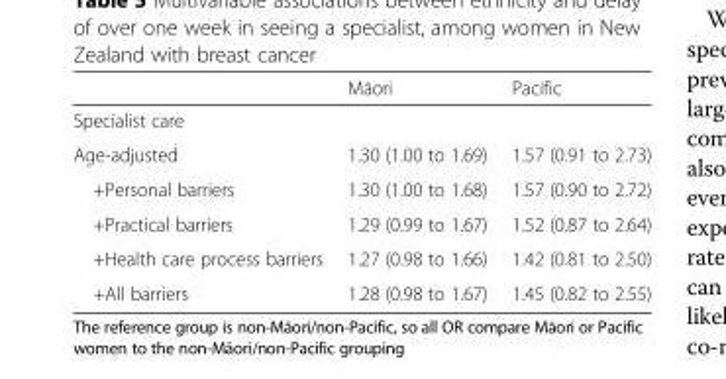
<table><thead><tr><td></td><td>Māori</td><td>Pacific</td></tr></thead><tbody><tr><td colspan="3">Specialist care</td></tr><tr><td>Age-adjusted</td><td>1.30 (1.00 to 1.69)</td><td>1.57 (0.91 to 2.73)</td></tr><tr><td>+Personal barriers</td><td>1.30 (1.00 to 1.68)</td><td>1.57 (0.90 to 2.72)</td></tr><tr><td>+Practical barriers</td><td>1.29 (0.99 to 1.67)</td><td>1.52 (0.87 to 2.64)</td></tr><tr><td>+Health care process barriers</td><td>1.27 (0.98 to 1.66)</td><td>1.42 (0.81 to 2.50)</td></tr><tr><td>+All barriers</td><td>1.28 (0.98 to 1.67)</td><td>1.45 (0.82 to 2.55)</td></tr></tbody></table>